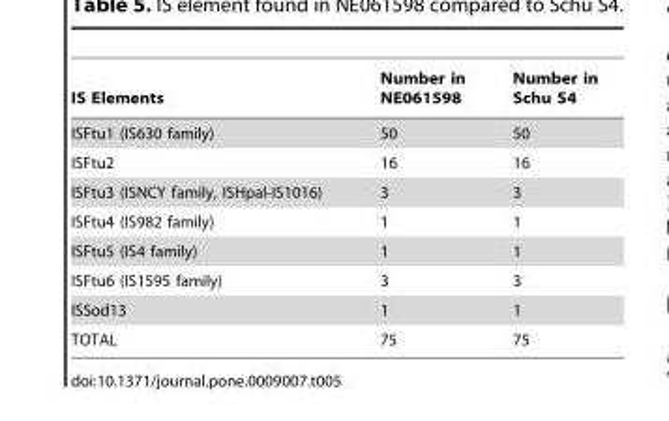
<table><thead><tr><td>IS Elements</td><td>Number in NE061598</td><td>Number in Schu S4</td></tr></thead><tbody><tr><td>ISFtu1 (IS630 family)</td><td>50</td><td>50</td></tr><tr><td>ISFtu2</td><td>16</td><td>16</td></tr><tr><td>ISFtu3 (ISNCY family, ISHpal-IS1016)</td><td>3</td><td>3</td></tr><tr><td>ISFtu4 (IS982 family)</td><td>1</td><td>1</td></tr><tr><td>ISFtu5 (IS4 family)</td><td>1</td><td>1</td></tr><tr><td>ISFtu6 (IS1595 family)</td><td>3</td><td>3</td></tr><tr><td>ISSod13</td><td>1</td><td>1</td></tr><tr><td>TOTAL</td><td>75</td><td>75</td></tr></tbody></table>